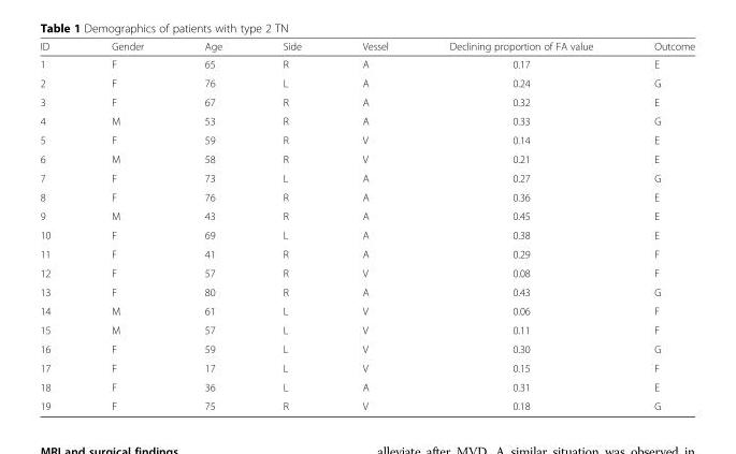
<table><thead><tr><td>ID</td><td>Gender</td><td>Age</td><td>Side</td><td>Vessel</td><td>Declining proportion of FA value</td><td>Outcome</td></tr></thead><tbody><tr><td>1</td><td>F</td><td>65</td><td>R</td><td>A</td><td>0.17</td><td>E</td></tr><tr><td>2</td><td>F</td><td>76</td><td>L</td><td>A</td><td>0.24</td><td>G</td></tr><tr><td>3</td><td>F</td><td>67</td><td>R</td><td>A</td><td>0.32</td><td>E</td></tr><tr><td>4</td><td>M</td><td>53</td><td>R</td><td>A</td><td>0.33</td><td>G</td></tr><tr><td>5</td><td>F</td><td>59</td><td>R</td><td>V</td><td>0.14</td><td>E</td></tr><tr><td>6</td><td>M</td><td>58</td><td>R</td><td>V</td><td>0.21</td><td>E</td></tr><tr><td>7</td><td>F</td><td>73</td><td>L</td><td>A</td><td>0.27</td><td>G</td></tr><tr><td>8</td><td>F</td><td>76</td><td>R</td><td>A</td><td>0.36</td><td>E</td></tr><tr><td>9</td><td>M</td><td>43</td><td>R</td><td>A</td><td>0.45</td><td>E</td></tr><tr><td>10</td><td>F</td><td>69</td><td>L</td><td>A</td><td>0.38</td><td>E</td></tr><tr><td>11</td><td>F</td><td>41</td><td>R</td><td>A</td><td>0.29</td><td>F</td></tr><tr><td>12</td><td>F</td><td>57</td><td>R</td><td>V</td><td>0.08</td><td>F</td></tr><tr><td>13</td><td>F</td><td>80</td><td>R</td><td>A</td><td>0.43</td><td>G</td></tr><tr><td>14</td><td>M</td><td>61</td><td>L</td><td>V</td><td>0.06</td><td>F</td></tr><tr><td>15</td><td>M</td><td>57</td><td>L</td><td>V</td><td>0.11</td><td>F</td></tr><tr><td>16</td><td>F</td><td>59</td><td>L</td><td>V</td><td>0.30</td><td>G</td></tr><tr><td>17</td><td>F</td><td>17</td><td>L</td><td>V</td><td>0.15</td><td>F</td></tr><tr><td>18</td><td>F</td><td>36</td><td>L</td><td>A</td><td>0.31</td><td>E</td></tr><tr><td>19</td><td>F</td><td>75</td><td>R</td><td>V</td><td>0.18</td><td>G</td></tr></tbody></table>